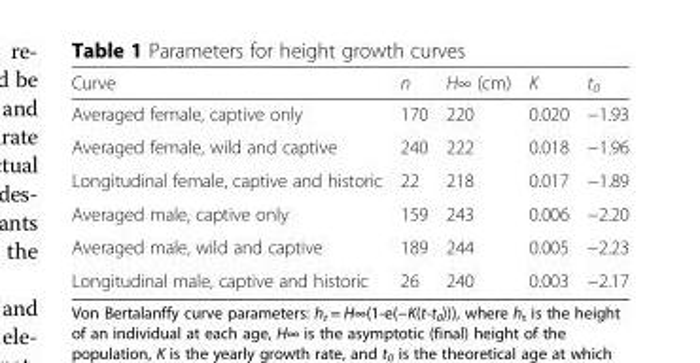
<table><thead><tr><td>Curve</td><td>n</td><td>H∞ (cm)</td><td>K</td><td>t<sub>0</sub></td></tr></thead><tbody><tr><td>Averaged female, captive only</td><td>170</td><td>220</td><td>0.020</td><td>−1.93</td></tr><tr><td>Averaged female, wild and captive</td><td>240</td><td>222</td><td>0.018</td><td>−1.96</td></tr><tr><td>Longitudinal female, captive and historic</td><td>22</td><td>218</td><td>0.017</td><td>−1.89</td></tr><tr><td>Averaged male, captive only</td><td>159</td><td>243</td><td>0.006</td><td>−2.20</td></tr><tr><td>Averaged male, wild and captive</td><td>189</td><td>244</td><td>0.005</td><td>−2.23</td></tr><tr><td>Longitudinal male, captive and historic</td><td>26</td><td>240</td><td>0.003</td><td>−2.17</td></tr></tbody></table>